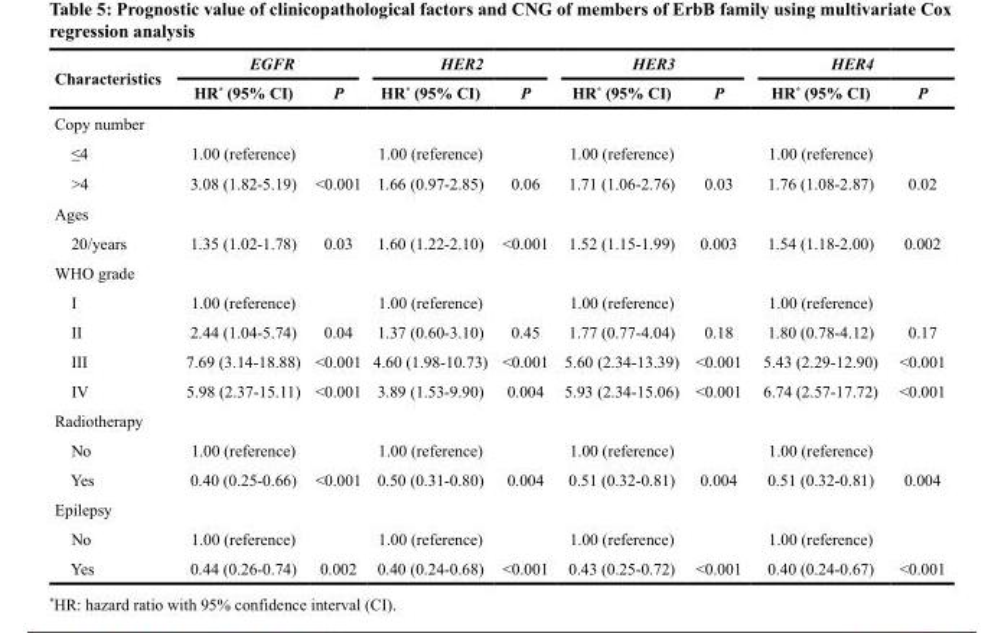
<table><thead><tr><td rowspan="2">Characteristics</td><td colspan="2">EGFR</td><td colspan="2">HER2</td><td colspan="2">HER3</td><td colspan="2">HER4</td></tr><tr><td>HR* (95% CI)</td><td>P</td><td>HR* (95% CI)</td><td>P</td><td>HR* (95% CI)</td><td>P</td><td>HR* (95% CI)</td><td>P</td></tr></thead><tbody><tr><td colspan="9">Copy number</td></tr><tr><td>≤4</td><td>1.00 (reference)</td><td></td><td>1.00 (reference)</td><td></td><td>1.00 (reference)</td><td></td><td>1.00 (reference)</td><td></td></tr><tr><td>&gt;4</td><td>3.08 (1.82-5.19)</td><td>&lt;0.001</td><td>1.66 (0.97-2.85)</td><td>0.06</td><td>1.71 (1.06-2.76)</td><td>0.03</td><td>1.76 (1.08-2.87)</td><td>0.02</td></tr><tr><td colspan="9">Ages</td></tr><tr><td>20/years</td><td>1.35 (1.02-1.78)</td><td>0.03</td><td>1.60 (1.22-2.10)</td><td>&lt;0.001</td><td>1.52 (1.15-1.99)</td><td>0.003</td><td>1.54 (1.18-2.00)</td><td>0.002</td></tr><tr><td colspan="9">WHO grade</td></tr><tr><td>I</td><td>1.00 (reference)</td><td></td><td>1.00 (reference)</td><td></td><td>1.00 (reference)</td><td></td><td>1.00 (reference)</td><td></td></tr><tr><td>II</td><td>2.44 (1.04-5.74)</td><td>0.04</td><td>1.37 (0.60-3.10)</td><td>0.45</td><td>1.77 (0.77-4.04)</td><td>0.18</td><td>1.80 (0.78-4.12)</td><td>0.17</td></tr><tr><td>III</td><td>7.69 (3.14-18.88)</td><td>&lt;0.001</td><td>4.60 (1.98-10.73)</td><td>&lt;0.001</td><td>5.60 (2.34-13.39)</td><td>&lt;0.001</td><td>5.43 (2.29-12.90)</td><td>&lt;0.001</td></tr><tr><td>IV</td><td>5.98 (2.37-15.11)</td><td>&lt;0.001</td><td>3.89 (1.53-9.90)</td><td>0.004</td><td>5.93 (2.34-15.06)</td><td>&lt;0.001</td><td>6.74 (2.57-17.72)</td><td>&lt;0.001</td></tr><tr><td colspan="9">Radiotherapy</td></tr><tr><td>No</td><td>1.00 (reference)</td><td></td><td>1.00 (reference)</td><td></td><td>1.00 (reference)</td><td></td><td>1.00 (reference)</td><td></td></tr><tr><td>Yes</td><td>0.40 (0.25-0.66)</td><td>&lt;0.001</td><td>0.50 (0.31-0.80)</td><td>0.004</td><td>0.51 (0.32-0.81)</td><td>0.004</td><td>0.51 (0.32-0.81)</td><td>0.004</td></tr><tr><td colspan="9">Epilepsy</td></tr><tr><td>No</td><td>1.00 (reference)</td><td></td><td>1.00 (reference)</td><td></td><td>1.00 (reference)</td><td></td><td>1.00 (reference)</td><td></td></tr><tr><td>Yes</td><td>0.44 (0.26-0.74)</td><td>0.002</td><td>0.40 (0.24-0.68)</td><td>&lt;0.001</td><td>0.43 (0.25-0.72)</td><td>&lt;0.001</td><td>0.40 (0.24-0.67)</td><td>&lt;0.001</td></tr></tbody></table>